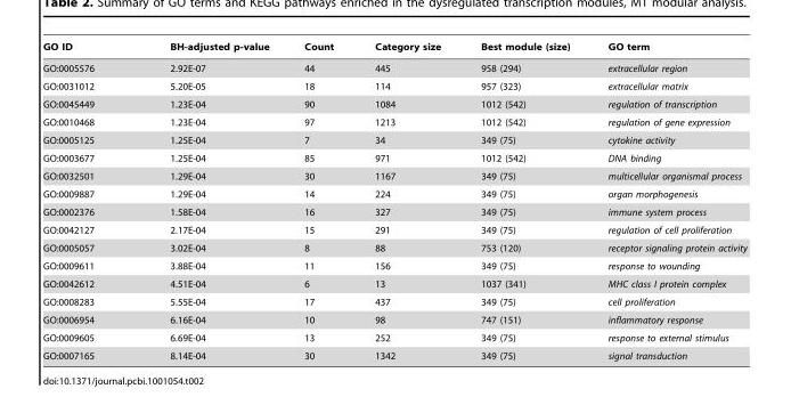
<table><thead><tr><td>GO ID</td><td>BH-adjusted p-value</td><td>Count</td><td>Category size</td><td>Best module (size)</td><td>GO term</td></tr></thead><tbody><tr><td>GO:0005576</td><td>2.92E-07</td><td>44</td><td>445</td><td>958 (294)</td><td>extracellular region</td></tr><tr><td>GO:0031012</td><td>5.20E-05</td><td>18</td><td>114</td><td>957 (323)</td><td>extracellular matrix</td></tr><tr><td>GO:0045449</td><td>1.23E-04</td><td>90</td><td>1084</td><td>1012 (542)</td><td>regulation of transcription</td></tr><tr><td>GO:0010468</td><td>1.23E-04</td><td>97</td><td>1213</td><td>1012 (542)</td><td>regulation of gene expression</td></tr><tr><td>GO:0005125</td><td>1.25E-04</td><td>7</td><td>34</td><td>349 (75)</td><td>cytokine activity</td></tr><tr><td>GO:0003677</td><td>1.25E-04</td><td>85</td><td>971</td><td>1012 (542)</td><td>DNA binding</td></tr><tr><td>GO:0032501</td><td>1.29E-04</td><td>30</td><td>1167</td><td>349 (75)</td><td>multicellular organismal process</td></tr><tr><td>GO:0009887</td><td>1.29E-04</td><td>14</td><td>224</td><td>349 (75)</td><td>organ morphogenesis</td></tr><tr><td>GO:0002376</td><td>1.58E-04</td><td>16</td><td>327</td><td>349 (75)</td><td>immune system process</td></tr><tr><td>GO:0042127</td><td>2.17E-04</td><td>15</td><td>291</td><td>349 (75)</td><td>regulation of cell proliferation</td></tr><tr><td>GO:0005057</td><td>3.02E-04</td><td>8</td><td>88</td><td>753 (120)</td><td>receptor signaling protein activity</td></tr><tr><td>GO:0009611</td><td>3.88E-04</td><td>11</td><td>156</td><td>349 (75)</td><td>response to wounding</td></tr><tr><td>GO:0042612</td><td>4.51E-04</td><td>6</td><td>13</td><td>1037 (341)</td><td>MHC class I protein complex</td></tr><tr><td>GO:0008283</td><td>5.55E-04</td><td>17</td><td>437</td><td>349 (75)</td><td>cell proliferation</td></tr><tr><td>GO:0006954</td><td>6.16E-04</td><td>10</td><td>98</td><td>747 (151)</td><td>inflammatory response</td></tr><tr><td>GO:0009605</td><td>6.69E-04</td><td>13</td><td>252</td><td>349 (75)</td><td>response to external stimulus</td></tr><tr><td>GO:0007165</td><td>8.14E-04</td><td>30</td><td>1342</td><td>349 (75)</td><td>signal transduction</td></tr></tbody></table>